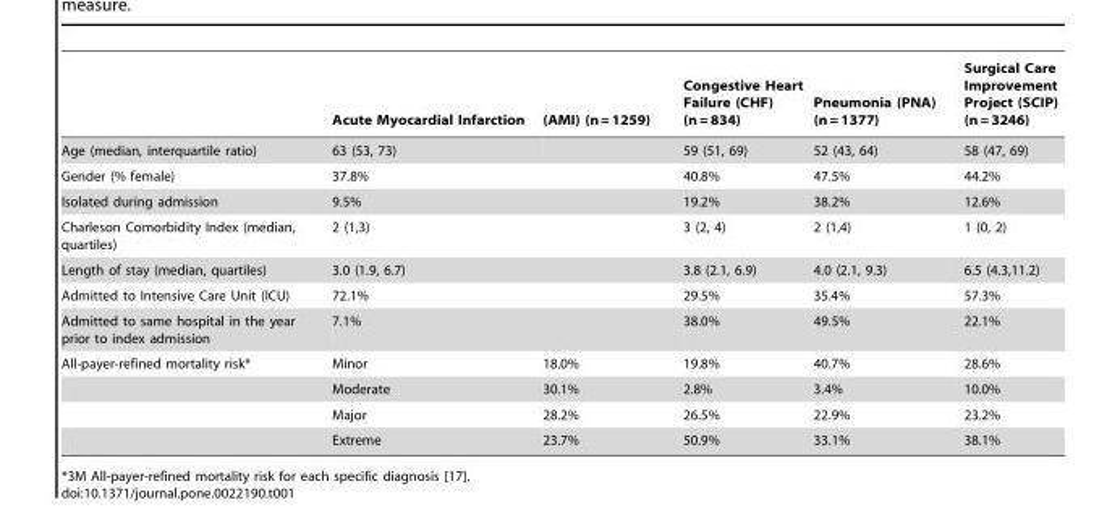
<table><thead><tr><td></td><td>Acute Myocardial Infarction</td><td>(AMI) (n = 1259)</td><td>Congestive Heart Failure (CHF) (n = 834)</td><td>Pneumonia (PNA) (n = 1377)</td><td>Surgical Care Improvement Project (SCIP) (n = 3246)</td></tr></thead><tbody><tr><td>Age (median, interquartile ratio)</td><td>63 (53, 73)</td><td></td><td>59 (51, 69)</td><td>52 (43, 64)</td><td>58 (47, 69)</td></tr><tr><td>Gender (% female)</td><td colspan="2">37.8%</td><td>40.8%</td><td>47.5%</td><td>44.2%</td></tr><tr><td>Isolated during admission</td><td colspan="2">9.5%</td><td>19.2%</td><td>38.2%</td><td>12.6%</td></tr><tr><td>Charleson Comorbidity Index (median, quartiles)</td><td colspan="2">2 (1,3)</td><td>3 (2, 4)</td><td>2 (1,4)</td><td>1 (0, 2)</td></tr><tr><td>Length of stay (median, quartiles)</td><td colspan="2">3.0 (1.9, 6.7)</td><td>3.8 (2.1, 6.9)</td><td>4.0 (2.1, 9.3)</td><td>6.5 (4.3,11.2)</td></tr><tr><td>Admitted to Intensive Care Unit (ICU)</td><td colspan="2">72.1%</td><td>29.5%</td><td>35.4%</td><td>57.3%</td></tr><tr><td>Admitted to same hospital in the year prior to index admission</td><td colspan="2">7.1%</td><td>38.0%</td><td>49.5%</td><td>22.1%</td></tr><tr><td rowspan="4">All-payer-refined mortality risk*</td><td>Minor</td><td>18.0%</td><td>19.8%</td><td>40.7%</td><td>28.6%</td></tr><tr><td>Moderate</td><td>30.1%</td><td>2.8%</td><td>3.4%</td><td>10.0%</td></tr><tr><td>Major</td><td>28.2%</td><td>26.5%</td><td>22.9%</td><td>23.2%</td></tr><tr><td>Extreme</td><td>23.7%</td><td>50.9%</td><td>33.1%</td><td>38.1%</td></tr></tbody></table>